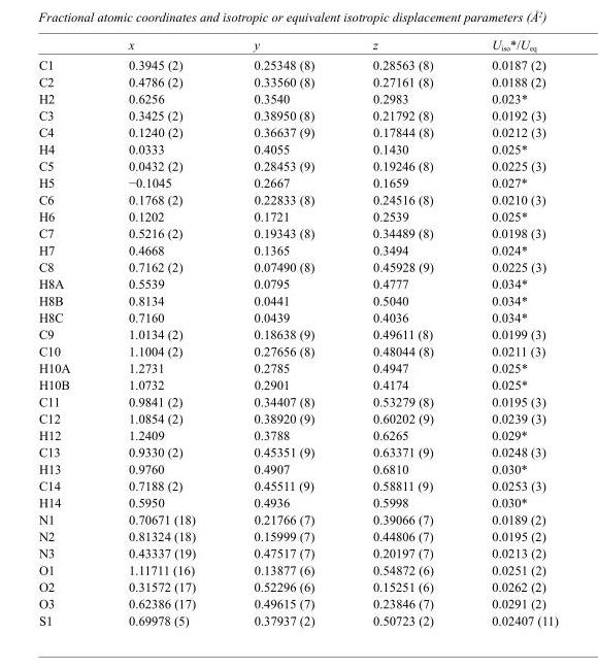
<table><thead><tr><td></td><td>x</td><td>y</td><td>z</td><td>U<sub>iso</sub>*/U<sub>eq</sub></td></tr></thead><tbody><tr><td>C1</td><td>0.3945 (2)</td><td>0.25348 (8)</td><td>0.28563 (8)</td><td>0.0187 (2)</td></tr><tr><td>C2</td><td>0.4786 (2)</td><td>0.33560 (8)</td><td>0.27161 (8)</td><td>0.0188 (2)</td></tr><tr><td>H2</td><td>0.6256</td><td>0.3540</td><td>0.2983</td><td>0.023*</td></tr><tr><td>C3</td><td>0.3425 (2)</td><td>0.38950 (8)</td><td>0.21792 (8)</td><td>0.0192 (3)</td></tr><tr><td>C4</td><td>0.1240 (2)</td><td>0.36637 (9)</td><td>0.17844 (8)</td><td>0.0212 (3)</td></tr><tr><td>H4</td><td>0.0333</td><td>0.4055</td><td>0.1430</td><td>0.025*</td></tr><tr><td>C5</td><td>0.0432 (2)</td><td>0.28453 (9)</td><td>0.19246 (8)</td><td>0.0225 (3)</td></tr><tr><td>H5</td><td>−0.1045</td><td>0.2667</td><td>0.1659</td><td>0.027*</td></tr><tr><td>C6</td><td>0.1768 (2)</td><td>0.22833 (8)</td><td>0.24516 (8)</td><td>0.0210 (3)</td></tr><tr><td>H6</td><td>0.1202</td><td>0.1721</td><td>0.2539</td><td>0.025*</td></tr><tr><td>C7</td><td>0.5216 (2)</td><td>0.19343 (8)</td><td>0.34489 (8)</td><td>0.0198 (3)</td></tr><tr><td>H7</td><td>0.4668</td><td>0.1365</td><td>0.3494</td><td>0.024*</td></tr><tr><td>C8</td><td>0.7162 (2)</td><td>0.07490 (8)</td><td>0.45928 (9)</td><td>0.0225 (3)</td></tr><tr><td>H8A</td><td>0.5539</td><td>0.0795</td><td>0.4777</td><td>0.034*</td></tr><tr><td>H8B</td><td>0.8134</td><td>0.0441</td><td>0.5040</td><td>0.034*</td></tr><tr><td>H8C</td><td>0.7160</td><td>0.0439</td><td>0.4036</td><td>0.034*</td></tr><tr><td>C9</td><td>1.0134 (2)</td><td>0.18638 (9)</td><td>0.49611 (8)</td><td>0.0199 (3)</td></tr><tr><td>C10</td><td>1.1004 (2)</td><td>0.27656 (8)</td><td>0.48044 (8)</td><td>0.0211 (3)</td></tr><tr><td>H10A</td><td>1.2731</td><td>0.2785</td><td>0.4947</td><td>0.025*</td></tr><tr><td>H10B</td><td>1.0732</td><td>0.2901</td><td>0.4174</td><td>0.025*</td></tr><tr><td>C11</td><td>0.9841 (2)</td><td>0.34407 (8)</td><td>0.53279 (8)</td><td>0.0195 (3)</td></tr><tr><td>C12</td><td>1.0854 (2)</td><td>0.38920 (9)</td><td>0.60202 (9)</td><td>0.0239 (3)</td></tr><tr><td>H12</td><td>1.2409</td><td>0.3788</td><td>0.6265</td><td>0.029*</td></tr><tr><td>C13</td><td>0.9330 (2)</td><td>0.45351 (9)</td><td>0.63371 (9)</td><td>0.0248 (3)</td></tr><tr><td>H13</td><td>0.9760</td><td>0.4907</td><td>0.6810</td><td>0.030*</td></tr><tr><td>C14</td><td>0.7188 (2)</td><td>0.45511 (9)</td><td>0.58811 (9)</td><td>0.0253 (3)</td></tr><tr><td>H14</td><td>0.5950</td><td>0.4936</td><td>0.5998</td><td>0.030*</td></tr><tr><td>N1</td><td>0.70671 (18)</td><td>0.21766 (7)</td><td>0.39066 (7)</td><td>0.0189 (2)</td></tr><tr><td>N2</td><td>0.81324 (18)</td><td>0.15999 (7)</td><td>0.44806 (7)</td><td>0.0195 (2)</td></tr><tr><td>N3</td><td>0.43337 (19)</td><td>0.47517 (7)</td><td>0.20197 (7)</td><td>0.0213 (2)</td></tr><tr><td>O1</td><td>1.11711 (16)</td><td>0.13877 (6)</td><td>0.54872 (6)</td><td>0.0251 (2)</td></tr><tr><td>O2</td><td>0.31572 (17)</td><td>0.52296 (6)</td><td>0.15251 (6)</td><td>0.0262 (2)</td></tr><tr><td>O3</td><td>0.62386 (17)</td><td>0.49615 (7)</td><td>0.23846 (7)</td><td>0.0291 (2)</td></tr><tr><td>S1</td><td>0.69978 (5)</td><td>0.37937 (2)</td><td>0.50723 (2)</td><td>0.02407 (11)</td></tr></tbody></table>